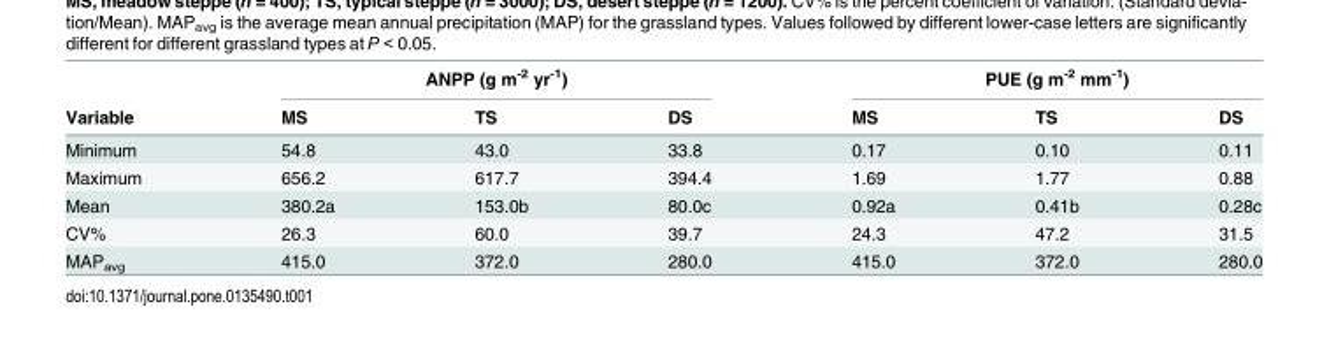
<table><thead><tr><td rowspan="2">Variable</td><td colspan="3">ANPP (g m<sup>-2</sup> yr<sup>-1</sup>)</td><td colspan="3">PUE (g m<sup>-2</sup> mm<sup>-1</sup>)</td></tr><tr><td>MS</td><td>TS</td><td>DS</td><td>MS</td><td>TS</td><td>DS</td></tr></thead><tbody><tr><td>Minimum</td><td>54.8</td><td>43.0</td><td>33.8</td><td>0.17</td><td>0.10</td><td>0.11</td></tr><tr><td>Maximum</td><td>656.2</td><td>617.7</td><td>394.4</td><td>1.69</td><td>1.77</td><td>0.88</td></tr><tr><td>Mean</td><td>380.2a</td><td>153.0b</td><td>80.0c</td><td>0.92a</td><td>0.41b</td><td>0.28c</td></tr><tr><td>CV%</td><td>26.3</td><td>60.0</td><td>39.7</td><td>24.3</td><td>47.2</td><td>31.5</td></tr><tr><td>MAP<sub>avg</sub></td><td>415.0</td><td>372.0</td><td>280.0</td><td>415.0</td><td>372.0</td><td>280.0</td></tr></tbody></table>